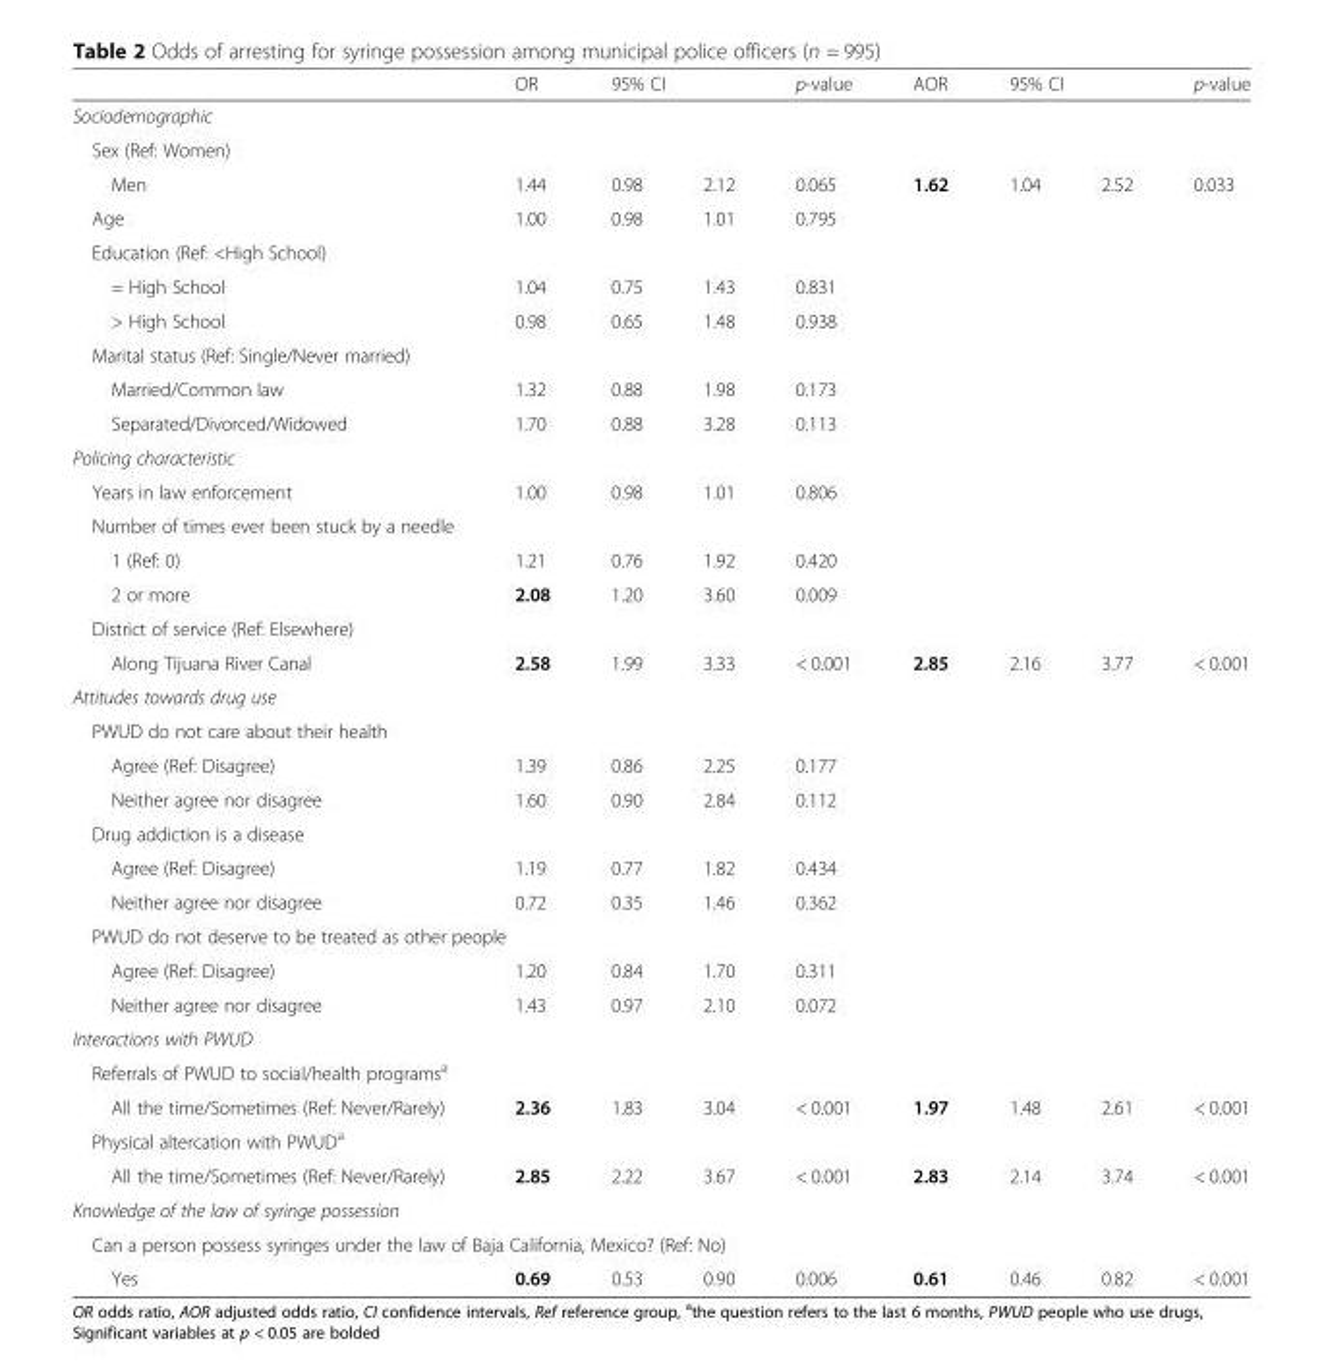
<table><thead><tr><td></td><td>OR</td><td colspan="2">95% CI</td><td>p-value</td><td>AOR</td><td colspan="2">95% CI</td><td>p-value</td></tr><tr><td rowspan="2" colspan="9">Sociodemographic Sex (Ref: Women)</td></tr><tr></tr><tr><td>Men</td><td>1.44</td><td>0.98</td><td>2.12</td><td>0.065</td><td>1.62</td><td>1.04</td><td>2.52</td><td>0.033</td></tr></thead><tbody><tr><td>Age</td><td>1.00</td><td>0.98</td><td>1.01</td><td>0.795</td><td></td><td></td><td></td><td></td></tr><tr><td colspan="9">Education (Ref: &lt;High School)</td></tr><tr><td>= High School</td><td>1.04</td><td>0.75</td><td>1.43</td><td>0.831</td><td></td><td></td><td></td><td></td></tr><tr><td>&gt; High School</td><td>0.98</td><td>0.65</td><td>1.48</td><td>0.938</td><td></td><td></td><td></td><td></td></tr><tr><td colspan="9">Marital status (Ref: Single/Never married)</td></tr><tr><td>Married/Common law</td><td>1.32</td><td>0.88</td><td>1.98</td><td>0.173</td><td></td><td></td><td></td><td></td></tr><tr><td>Separated/Divorced/Widowed</td><td>1.70</td><td>0.88</td><td>3.28</td><td>0.113</td><td></td><td></td><td></td><td></td></tr><tr><td colspan="9">Policing characteristic</td></tr><tr><td>Years in law enforcement</td><td>1.00</td><td>0.98</td><td>1.01</td><td>0.806</td><td></td><td></td><td></td><td></td></tr><tr><td colspan="9">Number of times ever been stuck by a needle</td></tr><tr><td>1 (Ref: 0)</td><td>1.21</td><td>0.76</td><td>1.92</td><td>0.420</td><td></td><td></td><td></td><td></td></tr><tr><td>2 or more</td><td>2.08</td><td>1.20</td><td>3.60</td><td>0.009</td><td></td><td></td><td></td><td></td></tr><tr><td colspan="9">District of service (Ref: Elsewhere)</td></tr><tr><td>Along Tijuana River Canal</td><td>2.58</td><td>1.99</td><td>3.33</td><td>&lt; 0.001</td><td>2.85</td><td>2.16</td><td>3.77</td><td>&lt; 0.001</td></tr><tr><td colspan="9">Attitudes towards drug use</td></tr><tr><td colspan="9">PWUD do not care about their health</td></tr><tr><td>Agree (Ref: Disagree)</td><td>1.39</td><td>0.86</td><td>2.25</td><td>0.177</td><td></td><td></td><td></td><td></td></tr><tr><td>Neither agree nor disagree</td><td>1.60</td><td>0.90</td><td>2.84</td><td>0.112</td><td></td><td></td><td></td><td></td></tr><tr><td colspan="9">Drug addiction is a disease</td></tr><tr><td>Agree (Ref: Disagree)</td><td>1.19</td><td>0.77</td><td>1.82</td><td>0.434</td><td></td><td></td><td></td><td></td></tr><tr><td>Neither agree nor disagree</td><td>0.72</td><td>0.35</td><td>1.46</td><td>0.362</td><td></td><td></td><td></td><td></td></tr><tr><td colspan="9">PWUD do not deserve to be treated as other people</td></tr><tr><td>Agree (Ref: Disagree)</td><td>1.20</td><td>0.84</td><td>1.70</td><td>0.311</td><td></td><td></td><td></td><td></td></tr><tr><td>Neither agree nor disagree</td><td>1.43</td><td>0.97</td><td>2.10</td><td>0.072</td><td></td><td></td><td></td><td></td></tr><tr><td colspan="9">Interactions with PWUD</td></tr><tr><td colspan="9">Referrals of PWUD to social/health programs<sup>a</sup></td></tr><tr><td>All the time/Sometimes (Ref: Never/Rarely)</td><td>2.36</td><td>1.83</td><td>3.04</td><td>&lt; 0.001</td><td>1.97</td><td>1.48</td><td>2.61</td><td>&lt; 0.001</td></tr><tr><td colspan="9">Physical altercation with PWUD<sup>a</sup></td></tr><tr><td>All the time/Sometimes (Ref: Never/Rarely)</td><td>2.85</td><td>2.22</td><td>3.67</td><td>&lt; 0.001</td><td>2.83</td><td>2.14</td><td>3.74</td><td>&lt; 0.001</td></tr><tr><td colspan="9">Knowledge of the law of syringe possession</td></tr><tr><td colspan="9">Can a person possess syringes under the law of Baja California, Mexico? (Ref: No)</td></tr><tr><td>Yes</td><td>0.69</td><td>0.53</td><td>0.90</td><td>0.006</td><td>0.61</td><td>0.46</td><td>0.82</td><td>&lt; 0.001</td></tr></tbody></table>